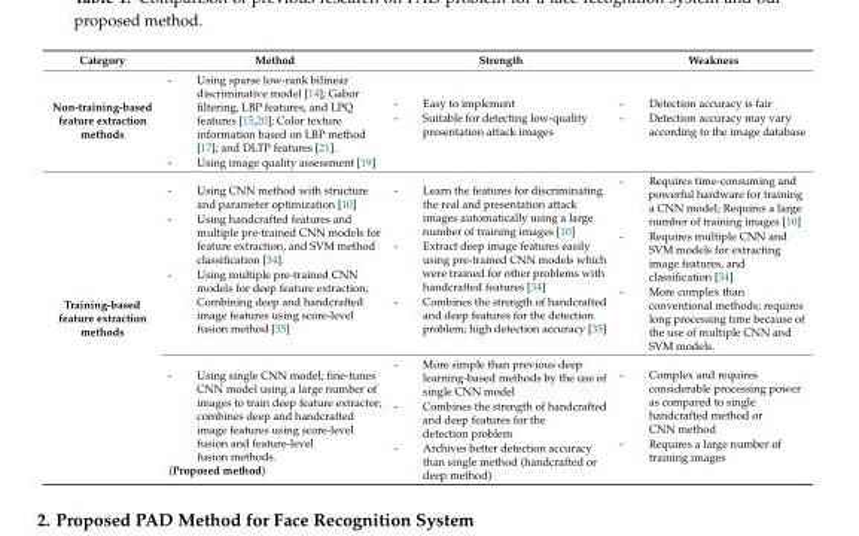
<table><thead><tr><td>Category</td><td>Method</td><td>Strength</td><td>Weakness</td></tr></thead><tbody><tr><td>Non-training-based feature extraction methods</td><td>- Using sparse low-rank bilinear discriminative model [14]; Gabor filtering, LBP features, and LPQ features [15,20]; Color texture information based on LBP method [17]; and DLTP features [21]. - Using image quality assessment [19]</td><td>- Easy to implement - Suitable for detecting low-quality presentation attack images</td><td>- Detection accuracy is fair - Detection accuracy may vary according to the image database</td></tr><tr><td rowspan="2">Training-based feature extraction methods</td><td>- Using CNN method with structure and parameter optimization [10] - Using handcrafted features and multiple pre-trained CNN models for feature extraction, and SVM method classification [34]. - Using multiple pre-trained CNN models for deep feature extraction; Combining deep and handcrafted image features using score-level fusion method [35]</td><td>- Learn the features for discriminating the real and presentation attack images automatically using a large number of training images [10] - Extract deep image features easily using pre-trained CNN models which were trained for other problems with handcrafted features [34] - Combines the strength of handcrafted and deep features for the detection problem; high detection accuracy [35]</td><td>- Requires time-consuming and powerful hardware for training a CNN model; Requires a large number of training images [10] - Requires multiple CNN and SVM models for extracting image features, and classification [34] - More complex than conventional methods; requires long processing time because of the use of multiple CNN and SVM models.</td></tr><tr><td>- Using single CNN model; fine-tunes CNN model using a large number of images to train deep feature extractor; combines deep and handcrafted image features using score-level fusion and feature-level fusion methods. (Proposed method)</td><td>- More simple than previous deep learning-based methods by the use of single CNN model - Combines the strength of handcrafted and deep features for the detection problem - Archives better detection accuracy than single method (handcrafted or deep method)</td><td>- Complex and requires considerable processing power as compared to single handcrafted method or CNN method - Requires a large number of training images</td></tr></tbody></table>